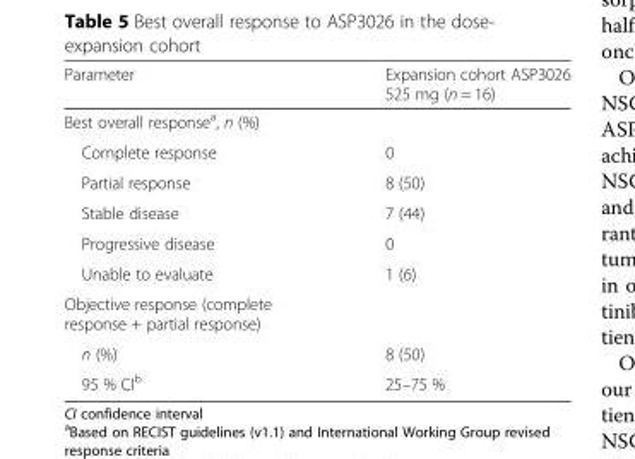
<table><thead><tr><td>Parameter</td><td>Expansion cohort ASP3026 525 mg (n = 16)</td></tr></thead><tbody><tr><td colspan="2">Best overall response<sup>a</sup>, n (%)</td></tr><tr><td>Complete response</td><td>0</td></tr><tr><td>Partial response</td><td>8 (50)</td></tr><tr><td>Stable disease</td><td>7 (44)</td></tr><tr><td>Progressive disease</td><td>0</td></tr><tr><td>Unable to evaluate</td><td>1 (6)</td></tr><tr><td colspan="2">Objective response (complete response + partial response)</td></tr><tr><td>n (%)</td><td>8 (50)</td></tr><tr><td>95 % CI<sup>b</sup></td><td>25–75 %</td></tr></tbody></table>